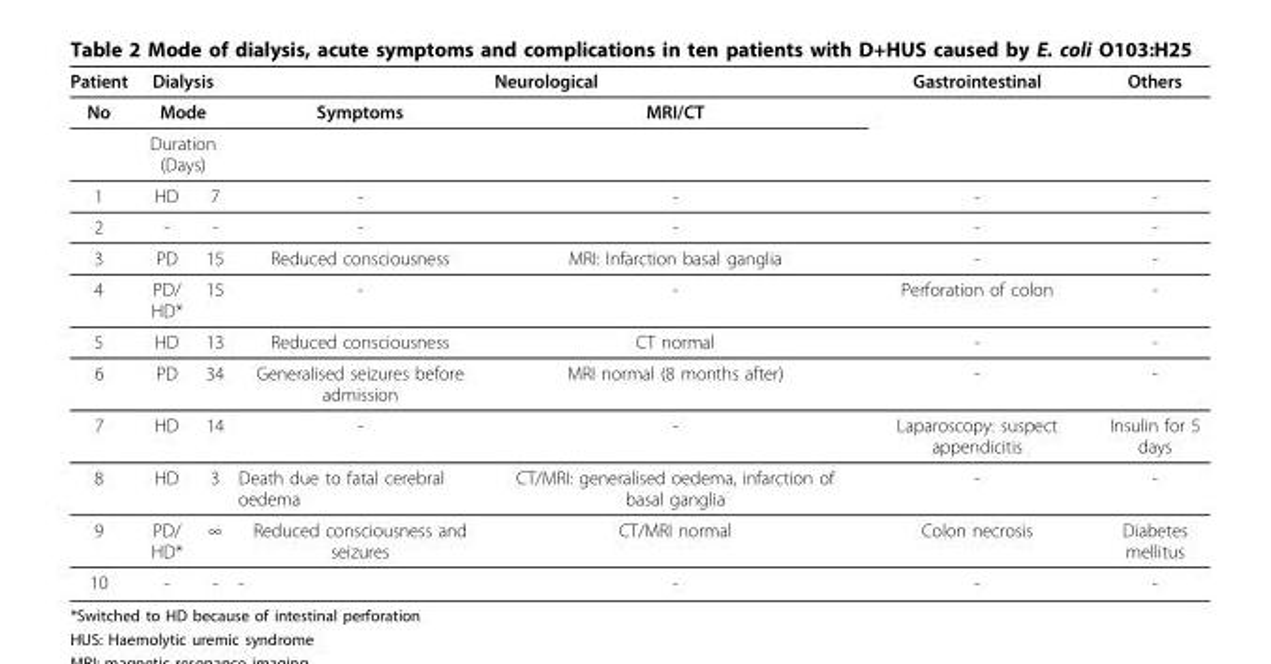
<table><thead><tr><td rowspan="4">Patient No 1</td><td rowspan="3" colspan="2">Dialysis Mode Duration (Days)</td><td colspan="2">Neurological</td><td rowspan="4">Gastrointestinal -</td><td rowspan="4">Others -</td></tr><tr><td rowspan="3">Symptoms -</td><td rowspan="3">MRI/CT -</td></tr><tr></tr><tr><td>HD</td><td>7</td></tr></thead><tbody><tr><td>2</td><td>-</td><td>-</td><td>-</td><td>-</td><td>-</td><td>-</td></tr><tr><td>3</td><td>PD</td><td>15</td><td>Reduced consciousness</td><td>MRI: Infarction basal ganglia</td><td>-</td><td>-</td></tr><tr><td>4</td><td>PD/ HD*</td><td>15</td><td>-</td><td>-</td><td>Perforation of colon</td><td>-</td></tr><tr><td>5</td><td>HD</td><td>13</td><td>Reduced consciousness</td><td>CT normal</td><td>-</td><td>-</td></tr><tr><td>6</td><td>PD</td><td>34</td><td>Generalised seizures before admission</td><td>MRI normal (8 months after)</td><td>-</td><td>-</td></tr><tr><td>7</td><td>HD</td><td>14</td><td>-</td><td>-</td><td>Laparoscopy: suspect appendicitis</td><td>Insulin for 5 days</td></tr><tr><td>8</td><td>HD</td><td>3</td><td>Death due to fatal cerebral oedema</td><td>CT/MRI: generalised oedema, infarction of basal ganglia</td><td>-</td><td>-</td></tr><tr><td>9</td><td>PD/ HD*</td><td>∞</td><td>Reduced consciousness and seizures</td><td>CT/MRI normal</td><td>Colon necrosis</td><td>Diabetes mellitus</td></tr><tr><td>10</td><td>-</td><td>-</td><td>-</td><td>-</td><td>-</td><td>-</td></tr></tbody></table>